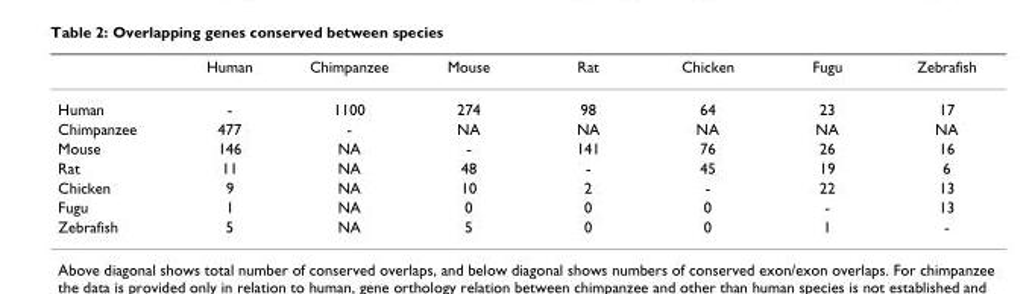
<table><thead><tr><td></td><td>Human</td><td>Chimpanzee</td><td>Mouse</td><td>Rat</td><td>Chicken</td><td>Fugu</td><td>Zebrafish</td></tr></thead><tbody><tr><td>Human</td><td>-</td><td>1100</td><td>274</td><td>98</td><td>64</td><td>23</td><td>17</td></tr><tr><td>Chimpanzee</td><td>477</td><td>-</td><td>NA</td><td>NA</td><td>NA</td><td>NA</td><td>NA</td></tr><tr><td>Mouse</td><td>146</td><td>NA</td><td>-</td><td>141</td><td>76</td><td>26</td><td>16</td></tr><tr><td>Rat</td><td>11</td><td>NA</td><td>48</td><td>-</td><td>45</td><td>19</td><td>6</td></tr><tr><td>Chicken</td><td>9</td><td>NA</td><td>10</td><td>2</td><td>-</td><td>22</td><td>13</td></tr><tr><td>Fugu</td><td>1</td><td>NA</td><td>0</td><td>0</td><td>0</td><td>-</td><td>13</td></tr><tr><td>Zebrafish</td><td>5</td><td>NA</td><td>5</td><td>0</td><td>0</td><td>1</td><td>-</td></tr></tbody></table>